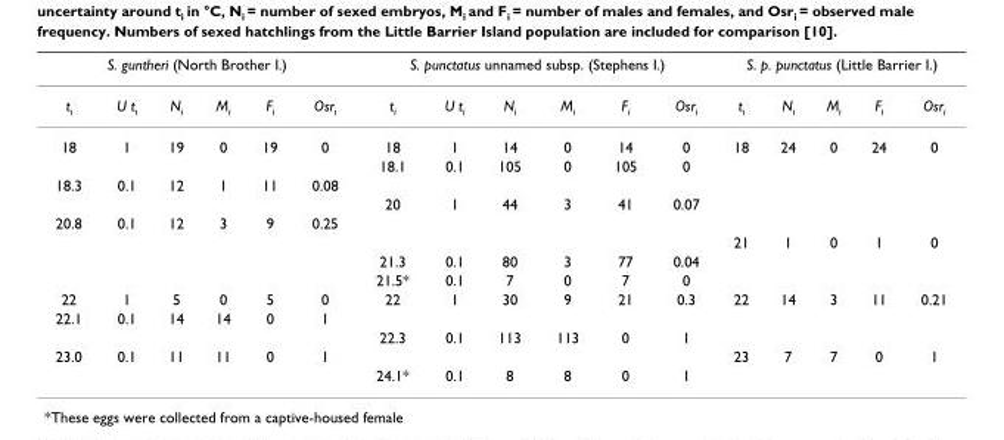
<table><thead><tr><td colspan="6">S. guntheri (North Brother I.)</td><td colspan="6">S. punctatus unnamed subsp. (Stephens I.)</td><td colspan="5">S. p. punctatus (Little Barrier I.)</td></tr><tr><td>t<sub>i</sub></td><td>U t<sub>i</sub></td><td>N<sub>i</sub></td><td>M<sub>i</sub></td><td>F<sub>i</sub></td><td>Osr<sub>i</sub></td><td>t<sub>i</sub></td><td>U t<sub>i</sub></td><td>N<sub>i</sub></td><td>M<sub>i</sub></td><td>F<sub>i</sub></td><td>Osr<sub>i</sub></td><td>t<sub>i</sub></td><td>N<sub>i</sub></td><td>M<sub>i</sub></td><td>F<sub>i</sub></td><td>Osr<sub>i</sub></td></tr></thead><tbody><tr><td rowspan="2">18</td><td>1</td><td>19</td><td>0</td><td>19</td><td>0</td><td>18</td><td>1</td><td>14</td><td>0</td><td>14</td><td>0</td><td>18</td><td>24</td><td>0</td><td>24</td><td>0</td></tr><tr><td></td><td></td><td></td><td></td><td></td><td>18.1</td><td>0.1</td><td>105</td><td>0</td><td>105</td><td>0</td><td></td><td></td><td></td><td></td><td></td></tr><tr><td rowspan="2">18.3</td><td>0.1</td><td>12</td><td>1</td><td>11</td><td>0.08</td><td></td><td></td><td></td><td></td><td></td><td></td><td></td><td></td><td></td><td></td><td></td></tr><tr><td></td><td></td><td></td><td></td><td></td><td>20</td><td>1</td><td>44</td><td>3</td><td>41</td><td>0.07</td><td></td><td></td><td></td><td></td><td></td></tr><tr><td rowspan="4">20.8</td><td>0.1</td><td>12</td><td>3</td><td>9</td><td>0.25</td><td></td><td></td><td></td><td></td><td></td><td></td><td></td><td></td><td></td><td></td><td></td></tr><tr><td></td><td></td><td></td><td></td><td></td><td></td><td></td><td></td><td></td><td></td><td></td><td>21</td><td>1</td><td>0</td><td>1</td><td>0</td></tr><tr><td></td><td></td><td></td><td></td><td></td><td>21.3</td><td>0.1</td><td>80</td><td>3</td><td>77</td><td>0.04</td><td></td><td></td><td></td><td></td><td></td></tr><tr><td></td><td></td><td></td><td></td><td></td><td>21.5*</td><td>0.1</td><td>7</td><td>0</td><td>7</td><td>0</td><td></td><td></td><td></td><td></td><td></td></tr><tr><td>22</td><td>1</td><td>5</td><td>0</td><td>5</td><td>0</td><td>22</td><td>1</td><td>30</td><td>9</td><td>21</td><td>0.3</td><td>22</td><td>14</td><td>3</td><td>11</td><td>0.21</td></tr><tr><td rowspan="2">22.1</td><td>0.1</td><td>14</td><td>14</td><td>0</td><td>1</td><td></td><td></td><td></td><td></td><td></td><td></td><td></td><td></td><td></td><td></td><td></td></tr><tr><td></td><td></td><td></td><td></td><td></td><td>22.3</td><td>0.1</td><td>113</td><td>113</td><td>0</td><td>1</td><td></td><td></td><td></td><td></td><td></td></tr><tr><td rowspan="2">23.0</td><td>0.1</td><td>11</td><td>11</td><td>0</td><td>1</td><td></td><td></td><td></td><td></td><td></td><td></td><td>23</td><td>7</td><td>7</td><td>0</td><td>1</td></tr><tr><td></td><td></td><td></td><td></td><td></td><td>24.1*</td><td>0.1</td><td>8</td><td>8</td><td>0</td><td>1</td><td></td><td></td><td></td><td></td><td></td></tr></tbody></table>